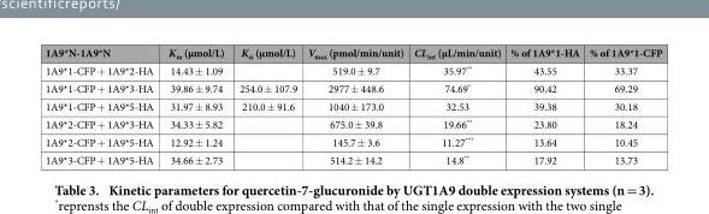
<table><thead><tr><td>1A9*N-1A9*N</td><td>K<sub>m</sub> (μmol/L)</td><td>K<sub>si</sub> (μmol/L)</td><td>V<sub>max</sub> (pmol/min/unit)</td><td>CL<sub>int</sub> (μL/min/unit)</td><td>% of 1A9*1-HA</td><td>% of 1A9*1-CFP</td></tr></thead><tbody><tr><td>1A9*1-CFP + 1A9*2-HA</td><td>14.43 ± 1.09</td><td></td><td>519.0 ± 9.7</td><td>35.97**</td><td>43.55</td><td>33.37</td></tr><tr><td>1A9*1-CFP + 1A9*3-HA</td><td>39.86 ± 9.74</td><td>254.0 ± 107.9</td><td>2977 ± 448.6</td><td>74.69*</td><td>90.42</td><td>69.29</td></tr><tr><td>1A9*1-CFP + 1A9*5-HA</td><td>31.97 ± 8.93</td><td>210.0 ± 91.6</td><td>1040 ± 173.0</td><td>32.53</td><td>39.38</td><td>30.18</td></tr><tr><td>1A9*2-CFP + 1A9*3-HA</td><td>34.33 ± 5.82</td><td></td><td>675.0 ± 39.8</td><td>19.66**</td><td>23.80</td><td>18.24</td></tr><tr><td>1A9*2-CFP + 1A9*5-HA</td><td>12.92 ± 1.24</td><td></td><td>145.7 ± 3.6</td><td>11.27***</td><td>13.64</td><td>10.45</td></tr><tr><td>1A9*3-CFP + 1A9*5-HA</td><td>34.66 ± 2.73</td><td></td><td>514.2 ± 14.2</td><td>14.8**</td><td>17.92</td><td>13.73</td></tr></tbody></table>